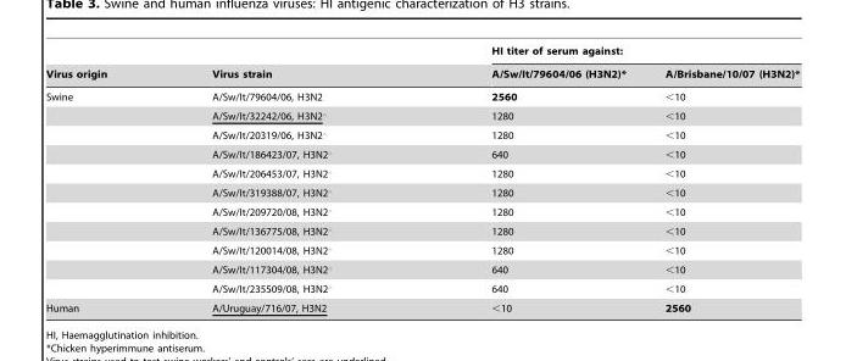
<table><thead><tr><td rowspan="2">Virus origin</td><td rowspan="2">Virus strain</td><td colspan="2">HI titer of serum against:</td></tr><tr><td>A/Sw/It/79604/06 (H3N2)*</td><td>A/Brisbane/10/07 (H3N2)*</td></tr></thead><tbody><tr><td rowspan="11">Swine</td><td>A/Sw/It/79604/06, H3N2</td><td>2560</td><td>&lt;10</td></tr><tr><td>A/Sw/It/32242/06, H3N2‘</td><td>1280</td><td>&lt;10</td></tr><tr><td>A/Sw/It/20319/06, H3N2‘</td><td>1280</td><td>&lt;10</td></tr><tr><td>A/Sw/It/186423/07, H3N2‘</td><td>640</td><td>&lt;10</td></tr><tr><td>A/Sw/It/206453/07, H3N2‘</td><td>1280</td><td>&lt;10</td></tr><tr><td>A/Sw/It/319388/07, H3N2‘</td><td>1280</td><td>&lt;10</td></tr><tr><td>A/Sw/It/209720/08, H3N2‘</td><td>1280</td><td>&lt;10</td></tr><tr><td>A/Sw/It/136775/08, H3N2‘</td><td>1280</td><td>&lt;10</td></tr><tr><td>A/Sw/It/120014/08, H3N2‘</td><td>1280</td><td>&lt;10</td></tr><tr><td>A/Sw/It/117304/08, H3N2‘</td><td>640</td><td>&lt;10</td></tr><tr><td>A/Sw/It/235509/08, H3N2‘</td><td>640</td><td>&lt;10</td></tr><tr><td>Human</td><td>A/Uruguay/716/07, H3N2</td><td>&lt;10</td><td>2560</td></tr></tbody></table>